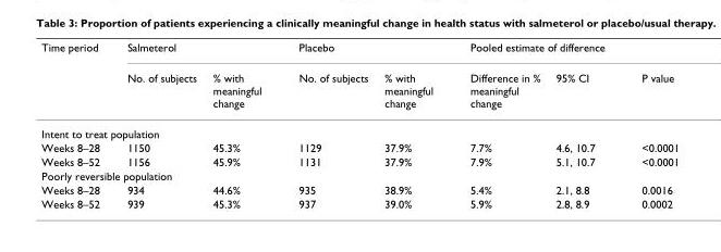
<table><thead><tr><td rowspan="2">Time period</td><td colspan="2">Salmeterol</td><td colspan="2">Placebo</td><td colspan="3">Pooled estimate of difference</td></tr><tr><td>No. of subjects</td><td>% with meaningful change</td><td>No. of subjects</td><td>% with meaningful change</td><td>Difference in % meaningful change</td><td>95% CI</td><td>P value</td></tr></thead><tbody><tr><td colspan="8">Intent to treat population</td></tr><tr><td>Weeks 8–28</td><td>1150</td><td>45.3%</td><td>1129</td><td>37.9%</td><td>7.7%</td><td>4.6, 10.7</td><td>&lt;0.0001</td></tr><tr><td>Weeks 8–52</td><td>1156</td><td>45.9%</td><td>1131</td><td>37.9%</td><td>7.9%</td><td>5.1, 10.7</td><td>&lt;0.0001</td></tr><tr><td colspan="8">Poorly reversible population</td></tr><tr><td>Weeks 8–28</td><td>934</td><td>44.6%</td><td>935</td><td>38.9%</td><td>5.4%</td><td>2.1, 8.8</td><td>0.0016</td></tr><tr><td>Weeks 8–52</td><td>939</td><td>45.3%</td><td>937</td><td>39.0%</td><td>5.9%</td><td>2.8, 8.9</td><td>0.0002</td></tr></tbody></table>